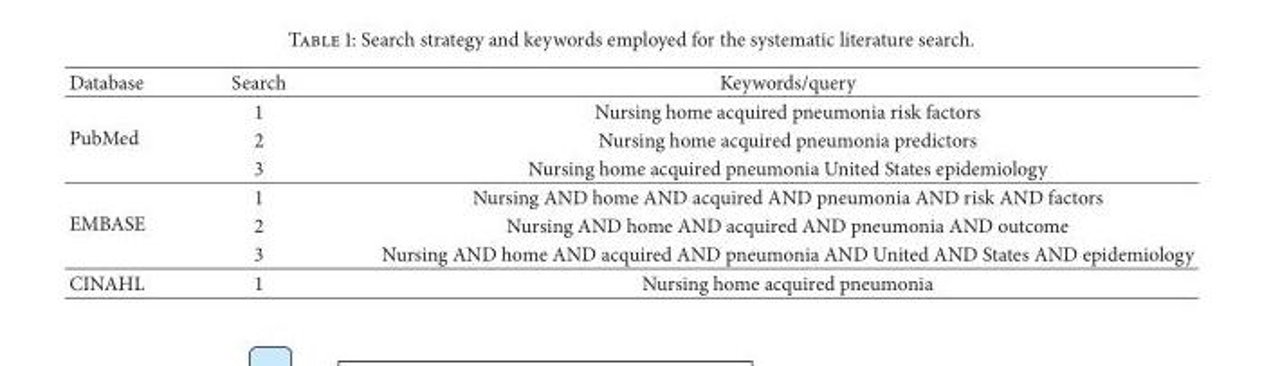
<table><thead><tr><td>Database</td><td>Search</td><td>Keywords/query</td></tr></thead><tbody><tr><td rowspan="3">PubMed</td><td>1</td><td>Nursing home acquired pneumonia risk factors</td></tr><tr><td>2</td><td>Nursing home acquired pneumonia predictors</td></tr><tr><td>3</td><td>Nursing home acquired pneumonia United States epidemiology</td></tr><tr><td rowspan="3">EMBASE</td><td>1</td><td>Nursing AND home AND acquired AND pneumonia AND risk AND factors</td></tr><tr><td>2</td><td>Nursing AND home AND acquired AND pneumonia AND outcome</td></tr><tr><td>3</td><td>Nursing AND home AND acquired AND pneumonia AND United AND States AND epidemiology</td></tr><tr><td>CINAHL</td><td>1</td><td>Nursing home acquired pneumonia</td></tr></tbody></table>